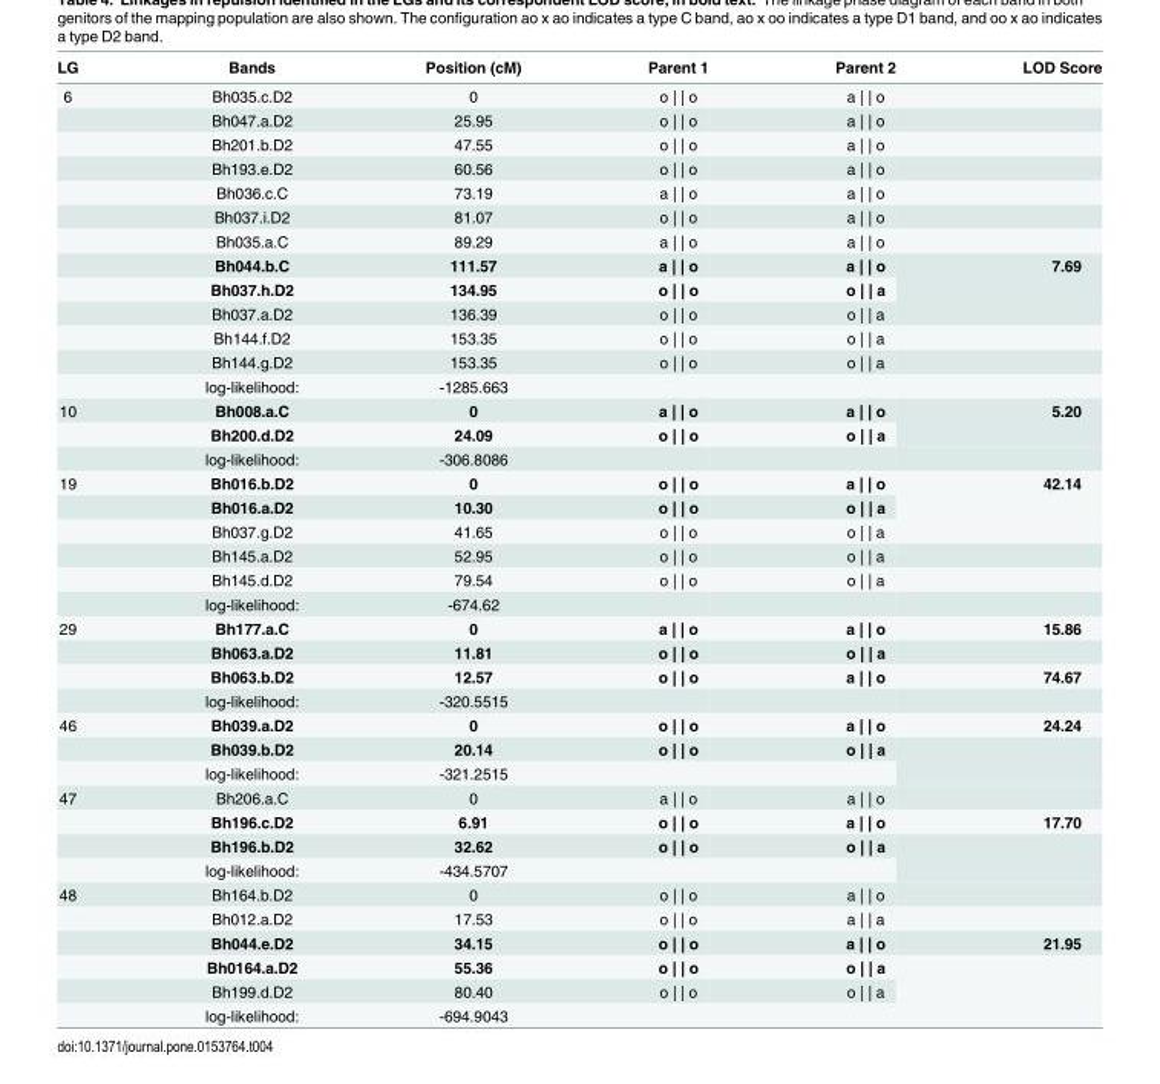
<table><thead><tr><td>LG</td><td>Bands</td><td>Position (cM)</td><td>Parent 1</td><td>Parent 2</td><td>LOD Score</td></tr></thead><tbody><tr><td rowspan="13">6</td><td>Bh035.c.D2</td><td>0</td><td>o | | o</td><td>a | | o</td><td></td></tr><tr><td>Bh047.a.D2</td><td>25.95</td><td>o | | o</td><td>a | | o</td><td></td></tr><tr><td>Bh201.b.D2</td><td>47.55</td><td>o | | o</td><td>a | | o</td><td></td></tr><tr><td>Bh193.e.D2</td><td>60.56</td><td>o | | o</td><td>a | | o</td><td></td></tr><tr><td>Bh036.c.C</td><td>73.19</td><td>a | | o</td><td>a | | o</td><td></td></tr><tr><td>Bh037.i.D2</td><td>81.07</td><td>o | | o</td><td>a | | o</td><td></td></tr><tr><td>Bh035.a.C</td><td>89.29</td><td>a | | o</td><td>a | | o</td><td></td></tr><tr><td>Bh044.b.C</td><td>111.57</td><td>a | | o</td><td>a | | o</td><td rowspan="2">7.69</td></tr><tr><td>Bh037.h.D2</td><td>134.95</td><td>o | | o</td><td>o | | a</td></tr><tr><td>Bh037.a.D2</td><td>136.39</td><td>o | | o</td><td>o | | a</td><td></td></tr><tr><td>Bh144.f.D2</td><td>153.35</td><td>o | | o</td><td>o | | a</td><td></td></tr><tr><td>Bh144.g.D2</td><td>153.35</td><td>o | | o</td><td>o | | a</td><td></td></tr><tr><td>log-likelihood:</td><td>-1285.663</td><td></td><td></td><td></td></tr><tr><td rowspan="3">10</td><td>Bh008.a.C</td><td>0</td><td>a | | o</td><td>a | | o</td><td rowspan="2">5.20</td></tr><tr><td>Bh200.d.D2</td><td>24.09</td><td>o | | o</td><td>o | | a</td></tr><tr><td>log-likelihood:</td><td>-306.8086</td><td></td><td></td><td></td></tr><tr><td rowspan="6">19</td><td>Bh016.b.D2</td><td>0</td><td>o | | o</td><td>a | | o</td><td rowspan="2">42.14</td></tr><tr><td>Bh016.a.D2</td><td>10.30</td><td>o | | o</td><td>o | | a</td></tr><tr><td>Bh037.g.D2</td><td>41.65</td><td>o | | o</td><td>o | | a</td><td></td></tr><tr><td>Bh145.a.D2</td><td>52.95</td><td>o | | o</td><td>o | | a</td><td></td></tr><tr><td>Bh145.d.D2</td><td>79.54</td><td>o | | o</td><td>o | | a</td><td></td></tr><tr><td>log-likelihood:</td><td>-674.62</td><td></td><td></td><td></td></tr><tr><td rowspan="4">29</td><td>Bh177.a.C</td><td>0</td><td>a | | o</td><td>a | | o</td><td>15.86</td></tr><tr><td>Bh063.a.D2</td><td>11.81</td><td>o | | o</td><td>o | | a</td><td></td></tr><tr><td>Bh063.b.D2</td><td>12.57</td><td>o | | o</td><td>a | | o</td><td>74.67</td></tr><tr><td>log-likelihood:</td><td>-320.5515</td><td></td><td></td><td></td></tr><tr><td rowspan="3">46</td><td>Bh039.a.D2</td><td>0</td><td>o | | o</td><td>a | | o</td><td>24.24</td></tr><tr><td>Bh039.b.D2</td><td>20.14</td><td>o | | o</td><td>o | | a</td><td rowspan="2"></td></tr><tr><td>log-likelihood:</td><td>-321.2515</td><td></td><td></td></tr><tr><td rowspan="4">47</td><td>Bh206.a.C</td><td>0</td><td>a | | o</td><td>a | | o</td><td></td></tr><tr><td>Bh196.c.D2</td><td>6.91</td><td>o | | o</td><td>a | | o</td><td>17.70</td></tr><tr><td>Bh196.b.D2</td><td>32.62</td><td>o | | o</td><td>o | | a</td><td rowspan="2"></td></tr><tr><td>log-likelihood:</td><td>-434.5707</td><td></td><td></td></tr><tr><td rowspan="6">48</td><td>Bh164.b.D2</td><td>0</td><td>o | | o</td><td>a | | o</td><td></td></tr><tr><td>Bh012.a.D2</td><td>17.53</td><td>o | | o</td><td>a | | a</td><td></td></tr><tr><td>Bh044.e.D2</td><td>34.15</td><td>o | | o</td><td>a | | o</td><td>21.95</td></tr><tr><td>Bh0164.a.D2</td><td>55.36</td><td>o | | o</td><td>o | | a</td><td rowspan="2"></td></tr><tr><td>Bh199.d.D2</td><td>80.40</td><td>o | | o</td><td>o | | a</td></tr><tr><td>log-likelihood:</td><td>-694.9043</td><td></td><td></td><td></td></tr></tbody></table>